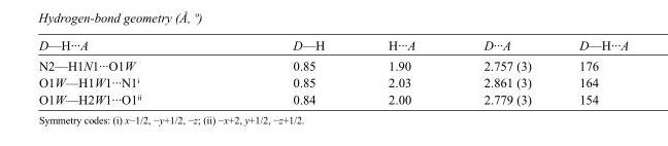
<table><tbody><tr><td>D—H···A</td><td>D—H</td><td>H···A</td><td>D···A</td><td>D—H···A</td></tr><tr><td>N2—H1N1···O1W</td><td>0.85</td><td>1.90</td><td>2.757 (3)</td><td>176</td></tr><tr><td>O1W—H1W1···N1<sup>i</sup></td><td>0.85</td><td>2.03</td><td>2.861 (3)</td><td>164</td></tr><tr><td>O1W—H2W1···O1<sup>ii</sup></td><td>0.84</td><td>2.00</td><td>2.779 (3)</td><td>154</td></tr></tbody></table>